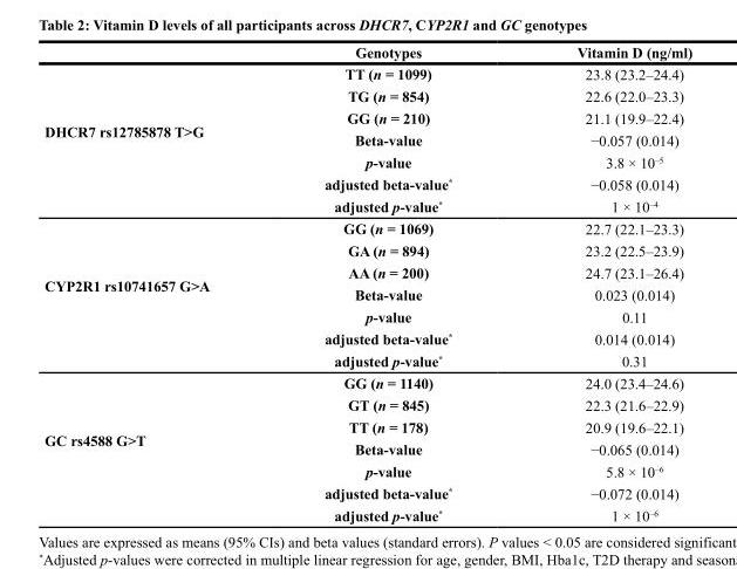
<table><thead><tr><td></td><td>Genotypes</td><td>Vitamin D (ng/ml)</td></tr></thead><tbody><tr><td rowspan="7">DHCR7 rs12785878 T&gt;G</td><td>TT (n = 1099)</td><td>23.8 (23.2–24.4)</td></tr><tr><td>TG (n = 854)</td><td>22.6 (22.0–23.3)</td></tr><tr><td>GG (n = 210)</td><td>21.1 (19.9–22.4)</td></tr><tr><td>Beta-value</td><td>−0.057 (0.014)</td></tr><tr><td>p-value</td><td>3.8 × 10<sup>–5</sup></td></tr><tr><td>adjusted beta-value*</td><td>−0.058 (0.014)</td></tr><tr><td>adjusted p-value*</td><td>1 × 10<sup>–4</sup></td></tr><tr><td rowspan="7">CYP2R1 rs10741657 G&gt;A</td><td>GG (n = 1069)</td><td>22.7 (22.1–23.3)</td></tr><tr><td>GA (n = 894)</td><td>23.2 (22.5–23.9)</td></tr><tr><td>AA (n = 200)</td><td>24.7 (23.1–26.4)</td></tr><tr><td>Beta-value</td><td>0.023 (0.014)</td></tr><tr><td>p-value</td><td>0.11</td></tr><tr><td>adjusted beta-value*</td><td>0.014 (0.014)</td></tr><tr><td>adjusted p-value*</td><td>0.31</td></tr><tr><td rowspan="7">GC rs4588 G&gt;T</td><td>GG (n = 1140)</td><td>24.0 (23.4–24.6)</td></tr><tr><td>GT (n = 845)</td><td>22.3 (21.6–22.9)</td></tr><tr><td>TT (n = 178)</td><td>20.9 (19.6–22.1)</td></tr><tr><td>Beta-value</td><td>−0.065 (0.014)</td></tr><tr><td>p-value</td><td>5.8 × 10<sup>–6</sup></td></tr><tr><td>adjusted beta-value*</td><td>−0.072 (0.014)</td></tr><tr><td>adjusted p-value*</td><td>1 × 10<sup>–6</sup></td></tr></tbody></table>